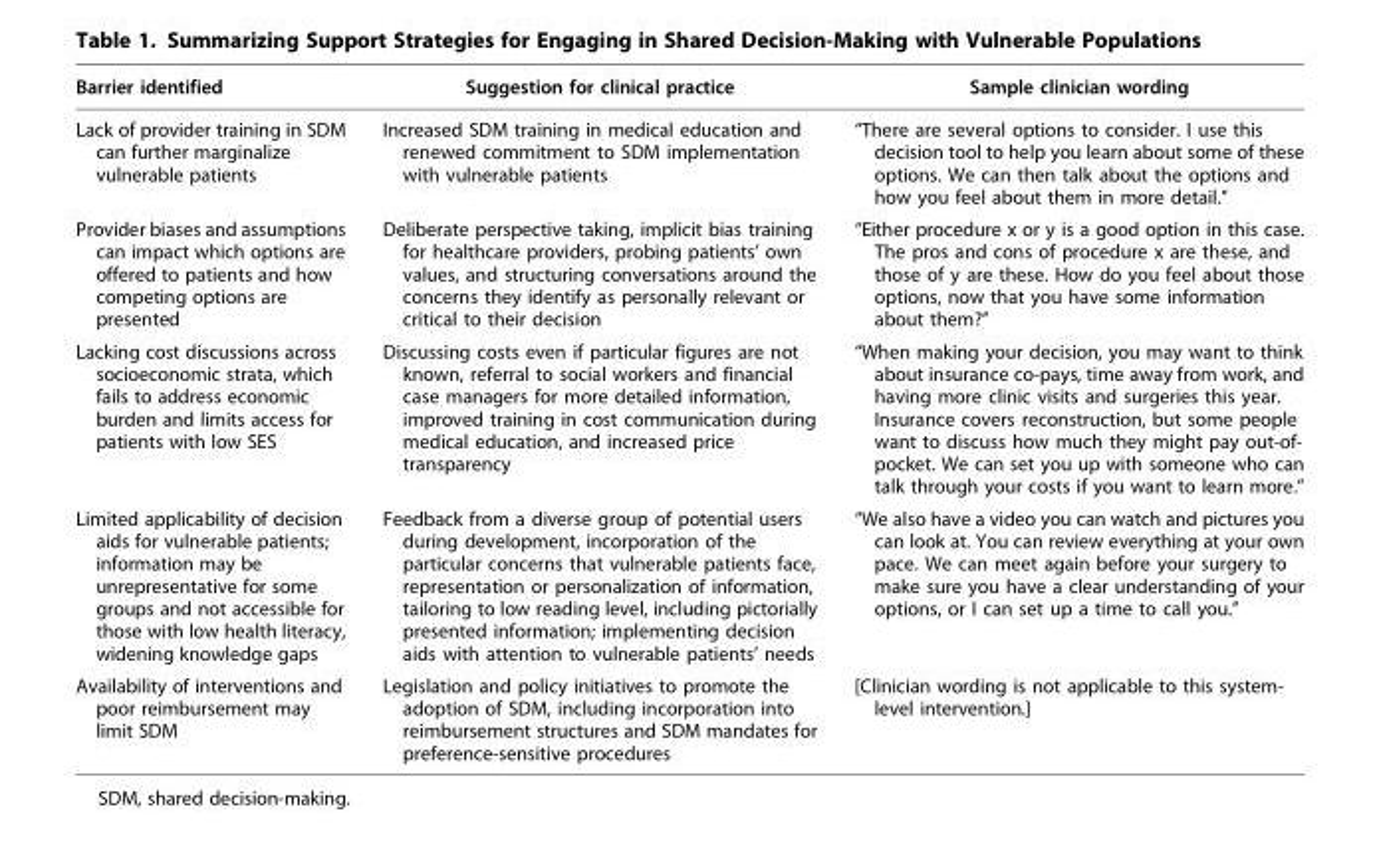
<table><thead><tr><td>Barrier identified</td><td>Suggestion for clinical practice</td><td>Sample clinician wording</td></tr></thead><tbody><tr><td>Lack of provider training in SDM can further marginalize vulnerable patients</td><td>Increased SDM training in medical education and renewed commitment to SDM implementation with vulnerable patients</td><td>‘‘There are several options to consider. I use this decision tool to help you learn about some of these options. We can then talk about the options and how you feel about them in more detail.’’</td></tr><tr><td>Provider biases and assumptions can impact which options are offered to patients and how competing options are presented</td><td>Deliberate perspective taking, implicit bias training for healthcare providers, probing patients’ own values, and structuring conversations around the concerns they identify as personally relevant or critical to their decision</td><td>‘‘Either procedure x or y is a good option in this case. The pros and cons of procedure x are these, and those of y are these. How do you feel about those options, now that you have some information about them?’’</td></tr><tr><td>Lacking cost discussions across socioeconomic strata, which fails to address economic burden and limits access for patients with low SES</td><td>Discussing costs even if particular figures are not known, referral to social workers and financial case managers for more detailed information, improved training in cost communication during medical education, and increased price transparency</td><td>‘‘When making your decision, you may want to think about insurance co-pays, time away from work, and having more clinic visits and surgeries this year. Insurance covers reconstruction, but some people want to discuss how much they might pay out-of- pocket. We can set you up with someone who can talk through your costs if you want to learn more.’’</td></tr><tr><td>Limited applicability of decision aids for vulnerable patients; information may be unrepresentative for some groups and not accessible for those with low health literacy, widening knowledge gaps</td><td>Feedback from a diverse group of potential users during development, incorporation of the particular concerns that vulnerable patients face, representation or personalization of information, tailoring to low reading level, including pictorially presented information; implementing decision aids with attention to vulnerable patients’ needs</td><td>‘‘We also have a video you can watch and pictures you can look at. You can review everything at your own pace. We can meet again before your surgery to make sure you have a clear understanding of your options, or I can set up a time to call you.’’</td></tr><tr><td>Availability of interventions and poor reimbursement may limit SDM</td><td>Legislation and policy initiatives to promote the adoption of SDM, including incorporation into reimbursement structures and SDM mandates for preference-sensitive procedures</td><td>[Clinician wording is not applicable to this system- level intervention.]</td></tr></tbody></table>